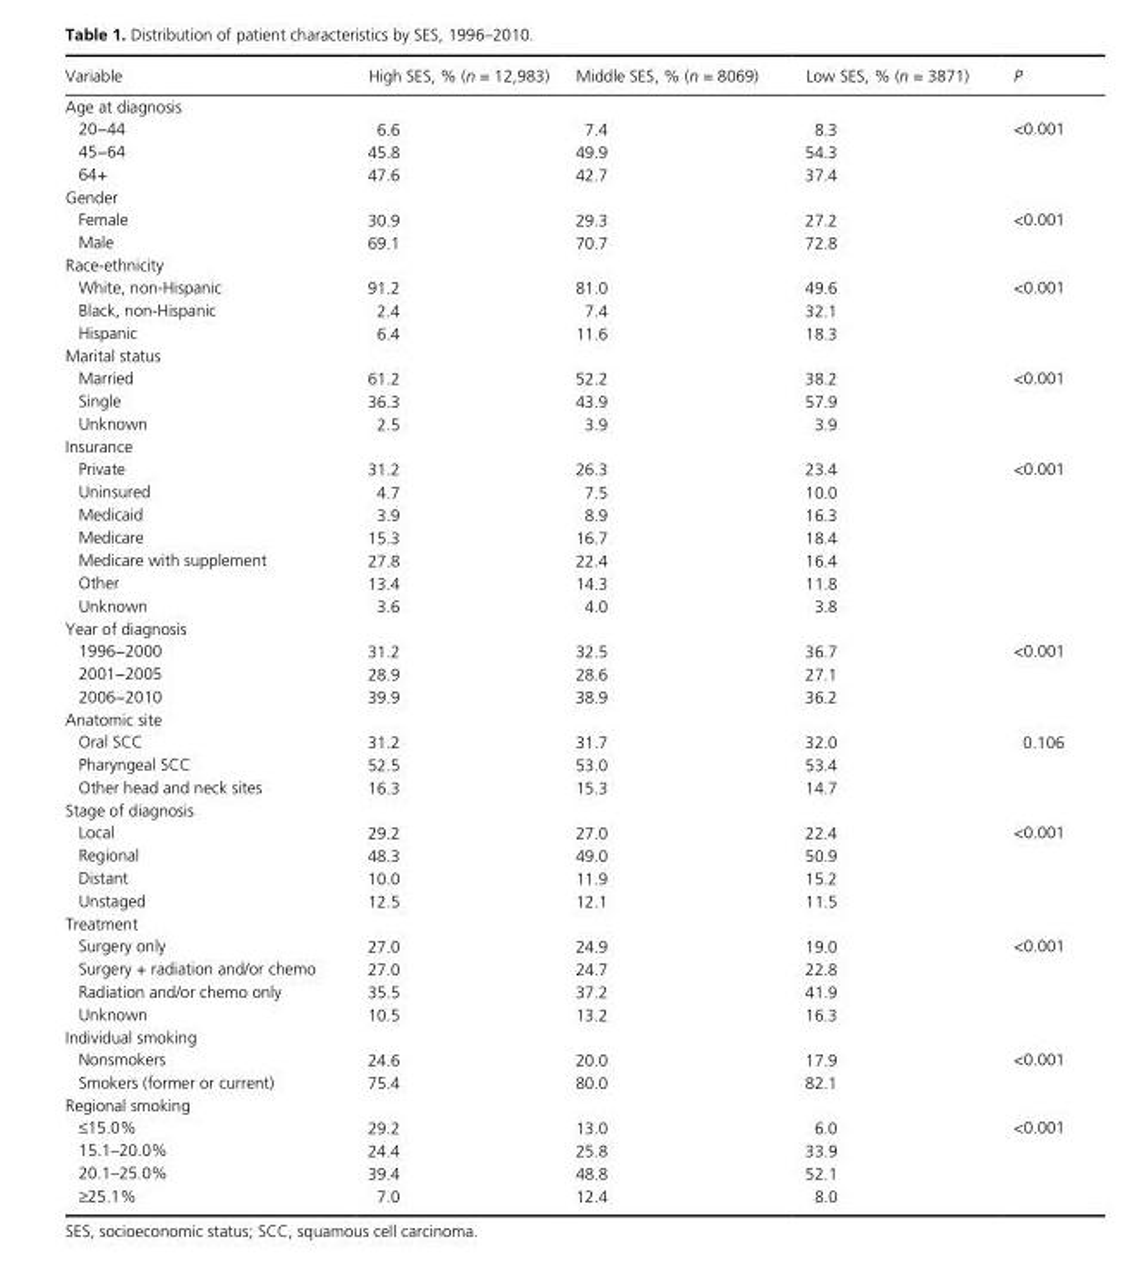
<table><thead><tr><td>Variable</td><td>High SES, % (n = 12,983)</td><td>Middle SES, % (n = 8069)</td><td>Low SES, % (n = 3871)</td><td>P</td></tr></thead><tbody><tr><td colspan="5">Age at diagnosis</td></tr><tr><td>20−44</td><td>6.6</td><td>7.4</td><td>8.3</td><td>&lt;0.001</td></tr><tr><td>45−64</td><td>45.8</td><td>49.9</td><td>54.3</td><td></td></tr><tr><td>64+</td><td>47.6</td><td>42.7</td><td>37.4</td><td></td></tr><tr><td colspan="5">Gender</td></tr><tr><td>Female</td><td>30.9</td><td>29.3</td><td>27.2</td><td>&lt;0.001</td></tr><tr><td>Male</td><td>69.1</td><td>70.7</td><td>72.8</td><td></td></tr><tr><td colspan="5">Race- ethnicity</td></tr><tr><td>White, non- Hispanic</td><td>91.2</td><td>81.0</td><td>49.6</td><td>&lt;0.001</td></tr><tr><td>Black, non- Hispanic</td><td>2.4</td><td>7.4</td><td>32.1</td><td></td></tr><tr><td>Hispanic</td><td>6.4</td><td>11.6</td><td>18.3</td><td></td></tr><tr><td colspan="5">Marital status</td></tr><tr><td>Married</td><td>61.2</td><td>52.2</td><td>38.2</td><td>&lt;0.001</td></tr><tr><td>Single</td><td>36.3</td><td>43.9</td><td>57.9</td><td></td></tr><tr><td>Unknown</td><td>2.5</td><td>3.9</td><td>3.9</td><td></td></tr><tr><td colspan="5">Insurance</td></tr><tr><td>Private</td><td>31.2</td><td>26.3</td><td>23.4</td><td>&lt;0.001</td></tr><tr><td>Uninsured</td><td>4.7</td><td>7.5</td><td>10.0</td><td></td></tr><tr><td>Medicaid</td><td>3.9</td><td>8.9</td><td>16.3</td><td></td></tr><tr><td>Medicare</td><td>15.3</td><td>16.7</td><td>18.4</td><td></td></tr><tr><td>Medicare with supplement</td><td>27.8</td><td>22.4</td><td>16.4</td><td></td></tr><tr><td>Other</td><td>13.4</td><td>14.3</td><td>11.8</td><td></td></tr><tr><td>Unknown</td><td>3.6</td><td>4.0</td><td>3.8</td><td></td></tr><tr><td colspan="5">Year of diagnosis</td></tr><tr><td>1996−2000</td><td>31.2</td><td>32.5</td><td>36.7</td><td>&lt;0.001</td></tr><tr><td>2001−2005</td><td>28.9</td><td>28.6</td><td>27.1</td><td></td></tr><tr><td>2006−2010</td><td>39.9</td><td>38.9</td><td>36.2</td><td></td></tr><tr><td colspan="5">Anatomic site</td></tr><tr><td>Oral SCC</td><td>31.2</td><td>31.7</td><td>32.0</td><td>0.106</td></tr><tr><td>Pharyngeal SCC</td><td>52.5</td><td>53.0</td><td>53.4</td><td></td></tr><tr><td>Other head and neck sites</td><td>16.3</td><td>15.3</td><td>14.7</td><td></td></tr><tr><td colspan="5">Stage of diagnosis</td></tr><tr><td>Local</td><td>29.2</td><td>27.0</td><td>22.4</td><td>&lt;0.001</td></tr><tr><td>Regional</td><td>48.3</td><td>49.0</td><td>50.9</td><td></td></tr><tr><td>Distant</td><td>10.0</td><td>11.9</td><td>15.2</td><td></td></tr><tr><td>Unstaged</td><td>12.5</td><td>12.1</td><td>11.5</td><td></td></tr><tr><td colspan="5">Treatment</td></tr><tr><td>Surgery only</td><td>27.0</td><td>24.9</td><td>19.0</td><td>&lt;0.001</td></tr><tr><td>Surgery + radiation and/or chemo</td><td>27.0</td><td>24.7</td><td>22.8</td><td></td></tr><tr><td>Radiation and/or chemo only</td><td>35.5</td><td>37.2</td><td>41.9</td><td></td></tr><tr><td>Unknown</td><td>10.5</td><td>13.2</td><td>16.3</td><td></td></tr><tr><td colspan="5">Individual smoking</td></tr><tr><td>Nonsmokers</td><td>24.6</td><td>20.0</td><td>17.9</td><td>&lt;0.001</td></tr><tr><td>Smokers (former or current)</td><td>75.4</td><td>80.0</td><td>82.1</td><td></td></tr><tr><td colspan="5">Regional smoking</td></tr><tr><td>≤15.0%</td><td>29.2</td><td>13.0</td><td>6.0</td><td>&lt;0.001</td></tr><tr><td>15.1–20.0%</td><td>24.4</td><td>25.8</td><td>33.9</td><td></td></tr><tr><td>20.1–25.0%</td><td>39.4</td><td>48.8</td><td>52.1</td><td></td></tr><tr><td>≥25.1%</td><td>7.0</td><td>12.4</td><td>8.0</td><td></td></tr></tbody></table>